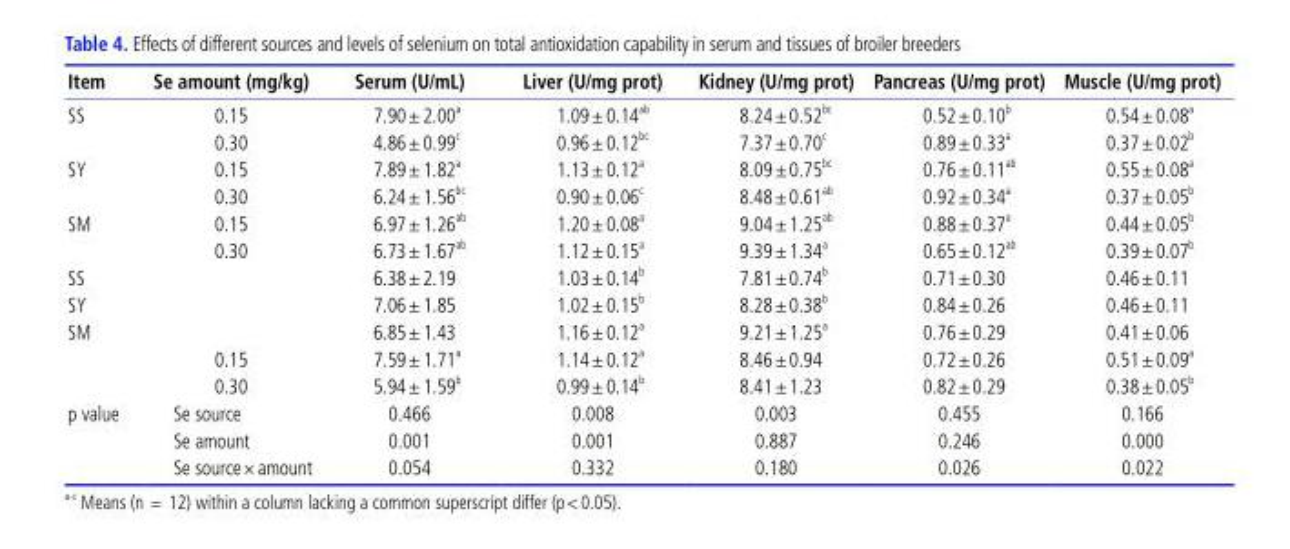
<table><thead><tr><td>Item</td><td>Se amount (mg/kg)</td><td>Serum (U/mL)</td><td>Liver (U/mg prot)</td><td>Kidney (U/mg prot)</td><td>Pancreas (U/mg prot)</td><td>Muscle (U/mg prot)</td></tr></thead><tbody><tr><td rowspan="2">SS</td><td>0.15</td><td>7.90±2.00 <sup>a</sup></td><td>1.09±0.14 <sup>ab</sup></td><td>8.24±0.52 <sup>bc</sup></td><td>0.52±0.10 <sup>b</sup></td><td>0.54±0.08 <sup>a</sup></td></tr><tr><td>0.30</td><td>4.86±0.99 <sup>c</sup></td><td>0.96±0.12 <sup>bc</sup></td><td>7.37±0.70 <sup>c</sup></td><td>0.89±0.33 <sup>a</sup></td><td>0.37±0.02 <sup>b</sup></td></tr><tr><td rowspan="2">SY</td><td>0.15</td><td>7.89±1.82 <sup>a</sup></td><td>1.13±0.12 <sup>a</sup></td><td>8.09±0.75 <sup>bc</sup></td><td>0.76±0.11 <sup>ab</sup></td><td>0.55±0.08 <sup>a</sup></td></tr><tr><td>0.30</td><td>6.24±1.56 <sup>bc</sup></td><td>0.90±0.06 <sup>c</sup></td><td>8.48±0.61 <sup>ab</sup></td><td>0.92±0.34 <sup>a</sup></td><td>0.37±0.05 <sup>b</sup></td></tr><tr><td rowspan="2">SM</td><td>0.15</td><td>6.97±1.26 <sup>ab</sup></td><td>1.20±0.08 <sup>a</sup></td><td>9.04±1.25 <sup>ab</sup></td><td>0.88±0.37 <sup>a</sup></td><td>0.44±0.05 <sup>b</sup></td></tr><tr><td>0.30</td><td>6.73±1.67 <sup>ab</sup></td><td>1.12±0.15 <sup>a</sup></td><td>9.39±1.34 <sup>a</sup></td><td>0.65±0.12 <sup>ab</sup></td><td>0.39±0.07 <sup>b</sup></td></tr><tr><td>SS</td><td></td><td>6.38±2.19</td><td>1.03±0.14 <sup>b</sup></td><td>7.81±0.74 <sup>b</sup></td><td>0.71±0.30</td><td>0.46±0.11</td></tr><tr><td>SY</td><td></td><td>7.06±1.85</td><td>1.02±0.15 <sup>b</sup></td><td>8.28±0.38 <sup>b</sup></td><td>0.84±0.26</td><td>0.46±0.11</td></tr><tr><td rowspan="3">SM</td><td></td><td>6.85±1.43</td><td>1.16±0.12 <sup>a</sup></td><td>9.21±1.25 <sup>a</sup></td><td>0.76±0.29</td><td>0.41±0.06</td></tr><tr><td>0.15</td><td>7.59±1.71 <sup>a</sup></td><td>1.14±0.12 <sup>a</sup></td><td>8.46±0.94</td><td>0.72±0.26</td><td>0.51±0.09 <sup>a</sup></td></tr><tr><td>0.30</td><td>5.94±1.59 <sup>b</sup></td><td>0.99±0.14 <sup>b</sup></td><td>8.41±1.23</td><td>0.82±0.29</td><td>0.38±0.05 <sup>b</sup></td></tr><tr><td rowspan="3">p value</td><td>Se source</td><td>0.466</td><td>0.008</td><td>0.003</td><td>0.455</td><td>0.166</td></tr><tr><td>Se amount</td><td>0.001</td><td>0.001</td><td>0.887</td><td>0.246</td><td>0.000</td></tr><tr><td>Se source×amount</td><td>0.054</td><td>0.332</td><td>0.180</td><td>0.026</td><td>0.022</td></tr></tbody></table>